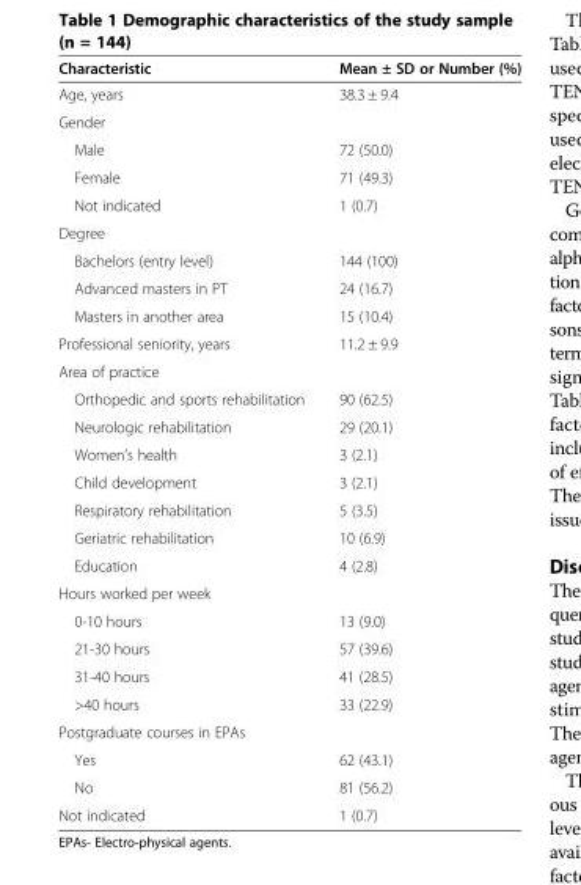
<table><thead><tr><td>Characteristic</td><td>Mean ± SD or Number (%)</td></tr></thead><tbody><tr><td>Age, years</td><td>38.3 ± 9.4</td></tr><tr><td colspan="2">Gender</td></tr><tr><td>Male</td><td>72 (50.0)</td></tr><tr><td>Female</td><td>71 (49.3)</td></tr><tr><td>Not indicated</td><td>1 (0.7)</td></tr><tr><td colspan="2">Degree</td></tr><tr><td>Bachelors (entry level)</td><td>144 (100)</td></tr><tr><td>Advanced masters in PT</td><td>24 (16.7)</td></tr><tr><td>Masters in another area</td><td>15 (10.4)</td></tr><tr><td>Professional seniority, years</td><td>11.2 ± 9.9</td></tr><tr><td colspan="2">Area of practice</td></tr><tr><td>Orthopedic and sports rehabilitation</td><td>90 (62.5)</td></tr><tr><td>Neurologic rehabilitation</td><td>29 (20.1)</td></tr><tr><td>Women’s health</td><td>3 (2.1)</td></tr><tr><td>Child development</td><td>3 (2.1)</td></tr><tr><td>Respiratory rehabilitation</td><td>5 (3.5)</td></tr><tr><td>Geriatric rehabilitation</td><td>10 (6.9)</td></tr><tr><td>Education</td><td>4 (2.8)</td></tr><tr><td colspan="2">Hours worked per week</td></tr><tr><td>0-10 hours</td><td>13 (9.0)</td></tr><tr><td>21-30 hours</td><td>57 (39.6)</td></tr><tr><td>31-40 hours</td><td>41 (28.5)</td></tr><tr><td>&gt;40 hours</td><td>33 (22.9)</td></tr><tr><td colspan="2">Postgraduate courses in EPAs</td></tr><tr><td>Yes</td><td>62 (43.1)</td></tr><tr><td>No</td><td>81 (56.2)</td></tr><tr><td>Not indicated</td><td>1 (0.7)</td></tr></tbody></table>